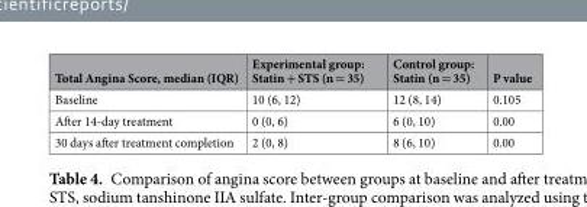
<table><thead><tr><td>Total Angina Score, median (IQR)</td><td>Experimental group: Statin + STS (n = 35)</td><td>Control group: Statin (n = 35)</td><td>P value</td></tr></thead><tbody><tr><td>Baseline</td><td>10 (6, 12)</td><td>12 (8, 14)</td><td>0.105</td></tr><tr><td>After 14-day treatment</td><td>0 (0, 6)</td><td>6 (0, 10)</td><td>0.00</td></tr><tr><td>30 days after treatment completion</td><td>2 (0, 8)</td><td>8 (6, 10)</td><td>0.00</td></tr></tbody></table>